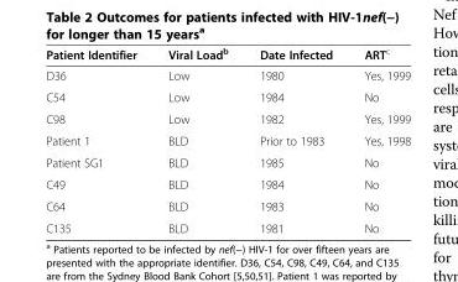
<table><thead><tr><td>Patient Identifier</td><td>Viral Load<sup>b</sup></td><td>Date Infected</td><td>ART<sup>c</sup></td></tr></thead><tbody><tr><td>D36</td><td>Low</td><td>1980</td><td>Yes, 1999</td></tr><tr><td>C54</td><td>Low</td><td>1984</td><td>No</td></tr><tr><td>C98</td><td>Low</td><td>1982</td><td>Yes, 1999</td></tr><tr><td>Patient 1</td><td>BLD</td><td>Prior to 1983</td><td>Yes, 1998</td></tr><tr><td>Patient SG1</td><td>BLD</td><td>1985</td><td>No</td></tr><tr><td>C49</td><td>BLD</td><td>1984</td><td>No</td></tr><tr><td>C64</td><td>BLD</td><td>1983</td><td>No</td></tr><tr><td>C135</td><td>BLD</td><td>1981</td><td>No</td></tr></tbody></table>